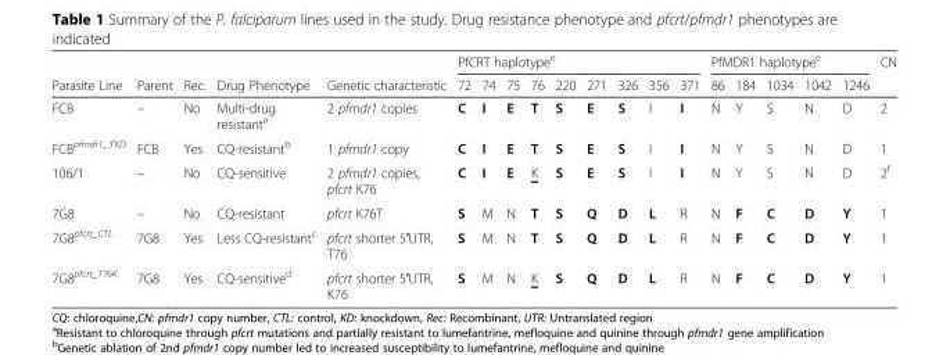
<table><thead><tr><td rowspan="2">Parasite Line</td><td rowspan="2">Parent</td><td rowspan="2">Rec.</td><td rowspan="2">Drug Phenotype</td><td rowspan="2">Genetic characteristic</td><td colspan="9">PfCRT haplotype<sup>e</sup></td><td colspan="5">PfMDR1 haplotype<sup>e</sup></td><td rowspan="2">CN</td></tr><tr><td>72</td><td>74</td><td>75</td><td>76</td><td>220</td><td>271</td><td>326</td><td>356</td><td>371</td><td>86</td><td>184</td><td>1034</td><td>1042</td><td>1246</td></tr></thead><tbody><tr><td>FCB</td><td>–</td><td>No</td><td>Multi-drug resistant<sup>a</sup></td><td>2 pfmdr1 copies</td><td>C</td><td>I</td><td>E</td><td>T</td><td>S</td><td>E</td><td>S</td><td>I</td><td>I</td><td>N</td><td>Y</td><td>S</td><td>N</td><td>D</td><td>2</td></tr><tr><td>FCB<sup>pfmdr1_3′KD</sup></td><td>FCB</td><td>Yes</td><td>CQ-resistant<sup>b</sup></td><td>1 pfmdr1 copy</td><td>C</td><td>I</td><td>E</td><td>T</td><td>S</td><td>E</td><td>S</td><td>I</td><td>I</td><td>N</td><td>Y</td><td>S</td><td>N</td><td>D</td><td>1</td></tr><tr><td>106/1</td><td>–</td><td>No</td><td>CQ-sensitive</td><td>2 pfmdr1 copies, pfcrt K76</td><td>C</td><td>I</td><td>E</td><td>K</td><td>S</td><td>E</td><td>S</td><td>I</td><td>I</td><td>N</td><td>Y</td><td>S</td><td>N</td><td>D</td><td>2<sup>f</sup></td></tr><tr><td>7G8</td><td>–</td><td>No</td><td>CQ-resistant</td><td>pfcrt K76T</td><td>S</td><td>M</td><td>N</td><td>T</td><td>S</td><td>Q</td><td>D</td><td>L</td><td>R</td><td>N</td><td>F</td><td>C</td><td>D</td><td>Y</td><td>1</td></tr><tr><td>7G8<sup>pfcrt_CTL</sup></td><td>7G8</td><td>Yes</td><td>Less CQ-resistant<sup>c</sup></td><td>pfcrt shorter 5′UTR, T76</td><td>S</td><td>M</td><td>N</td><td>T</td><td>S</td><td>Q</td><td>D</td><td>L</td><td>R</td><td>N</td><td>F</td><td>C</td><td>D</td><td>Y</td><td>1</td></tr><tr><td>7G8<sup>pfcrt_T76K</sup></td><td>7G8</td><td>Yes</td><td>CQ-sensitive<sup>d</sup></td><td>pfcrt shorter 5′UTR, K76</td><td>S</td><td>M</td><td>N</td><td>K</td><td>S</td><td>Q</td><td>D</td><td>L</td><td>R</td><td>N</td><td>F</td><td>C</td><td>D</td><td>Y</td><td>1</td></tr></tbody></table>